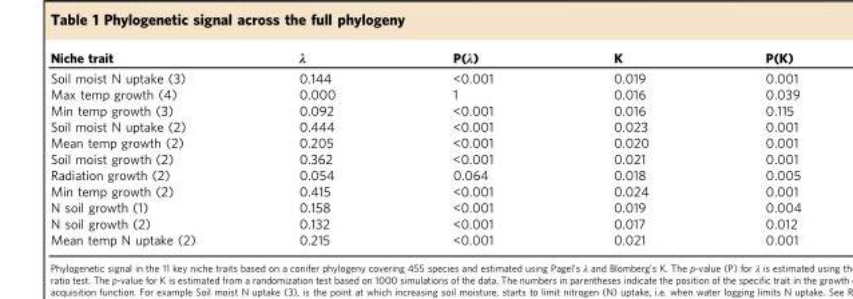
<table><thead><tr><td>Niche trait</td><td>λ</td><td>P(λ)</td><td>K</td><td>P(K)</td></tr></thead><tbody><tr><td>Soil moist N uptake (3)</td><td>0.144</td><td>&lt;0.001</td><td>0.019</td><td>0.001</td></tr><tr><td>Max temp growth (4)</td><td>0.000</td><td>1</td><td>0.016</td><td>0.039</td></tr><tr><td>Min temp growth (3)</td><td>0.092</td><td>&lt;0.001</td><td>0.016</td><td>0.115</td></tr><tr><td>Soil moist N uptake (2)</td><td>0.444</td><td>&lt;0.001</td><td>0.023</td><td>0.001</td></tr><tr><td>Mean temp growth (2)</td><td>0.205</td><td>&lt;0.001</td><td>0.020</td><td>0.001</td></tr><tr><td>Soil moist growth (2)</td><td>0.362</td><td>&lt;0.001</td><td>0.021</td><td>0.001</td></tr><tr><td>Radiation growth (2)</td><td>0.054</td><td>0.064</td><td>0.018</td><td>0.005</td></tr><tr><td>Min temp growth (2)</td><td>0.415</td><td>&lt;0.001</td><td>0.024</td><td>0.001</td></tr><tr><td>N soil growth (1)</td><td>0.158</td><td>&lt;0.001</td><td>0.019</td><td>0.004</td></tr><tr><td>N soil growth (2)</td><td>0.132</td><td>&lt;0.001</td><td>0.017</td><td>0.012</td></tr><tr><td>Mean temp N uptake (2)</td><td>0.215</td><td>&lt;0.001</td><td>0.021</td><td>0.001</td></tr></tbody></table>